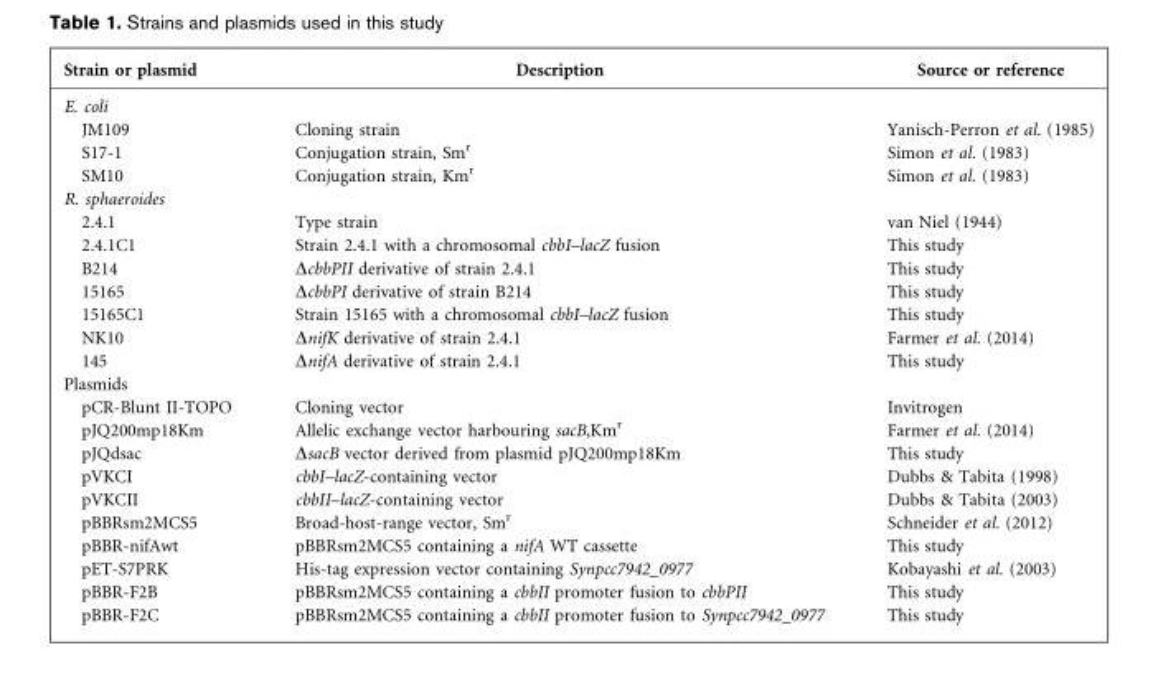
<table><thead><tr><td>Strain or plasmid</td><td>Description</td><td>Source or reference</td></tr></thead><tbody><tr><td colspan="3">E. coli</td></tr><tr><td>JM109</td><td>Cloning strain</td><td>Yanisch-Perron et al. (1985)</td></tr><tr><td>S17-1</td><td>Conjugation strain, Sm<sup>r</sup></td><td>Simon et al. (1983)</td></tr><tr><td>SM10</td><td>Conjugation strain, Km<sup>r</sup></td><td>Simon et al. (1983)</td></tr><tr><td colspan="3">R. sphaeroides</td></tr><tr><td>2.4.1</td><td>Type strain</td><td>van Niel (1944)</td></tr><tr><td>2.4.1C1</td><td>Strain 2.4.1 with a chromosomal cbbI–lacZ fusion</td><td>This study</td></tr><tr><td>B214</td><td>ΔcbbPII derivative of strain 2.4.1</td><td>This study</td></tr><tr><td>15165</td><td>ΔcbbPI derivative of strain B214</td><td>This study</td></tr><tr><td>15165C1</td><td>Strain 15165 with a chromosomal cbbI–lacZ fusion</td><td>This study</td></tr><tr><td>NK10</td><td>ΔnifK derivative of strain 2.4.1</td><td>Farmer et al. (2014)</td></tr><tr><td>145</td><td>ΔnifA derivative of strain 2.4.1</td><td>This study</td></tr><tr><td colspan="3">Plasmids</td></tr><tr><td>pCR-Blunt II-TOPO</td><td>Cloning vector</td><td>Invitrogen</td></tr><tr><td>pJQ200mp18Km</td><td>Allelic exchange vector harbouring sacB,Km<sup>r</sup></td><td>Farmer et al. (2014)</td></tr><tr><td>pJQdsac</td><td>ΔsacB vector derived from plasmid pJQ200mp18Km</td><td>This study</td></tr><tr><td>pVKCI</td><td>cbbI–lacZ-containing vector</td><td>Dubbs &amp; Tabita (1998)</td></tr><tr><td>pVKCII</td><td>cbbII–lacZ-containing vector</td><td>Dubbs &amp; Tabita (2003)</td></tr><tr><td>pBBRsm2MCS5</td><td>Broad-host-range vector, Sm<sup>r</sup></td><td>Schneider et al. (2012)</td></tr><tr><td>pBBR-nifAwt</td><td>pBBRsm2MCS5 containing a nifA WT cassette</td><td>This study</td></tr><tr><td>pET-S7PRK</td><td>His-tag expression vector containing Synpcc7942_0977</td><td>Kobayashi et al. (2003)</td></tr><tr><td>pBBR-F2B</td><td>pBBRsm2MCS5 containing a cbbII promoter fusion to cbbPII</td><td>This study</td></tr><tr><td>pBBR-F2C</td><td>pBBRsm2MCS5 containing a cbbII promoter fusion to Synpcc7942_0977</td><td>This study</td></tr></tbody></table>